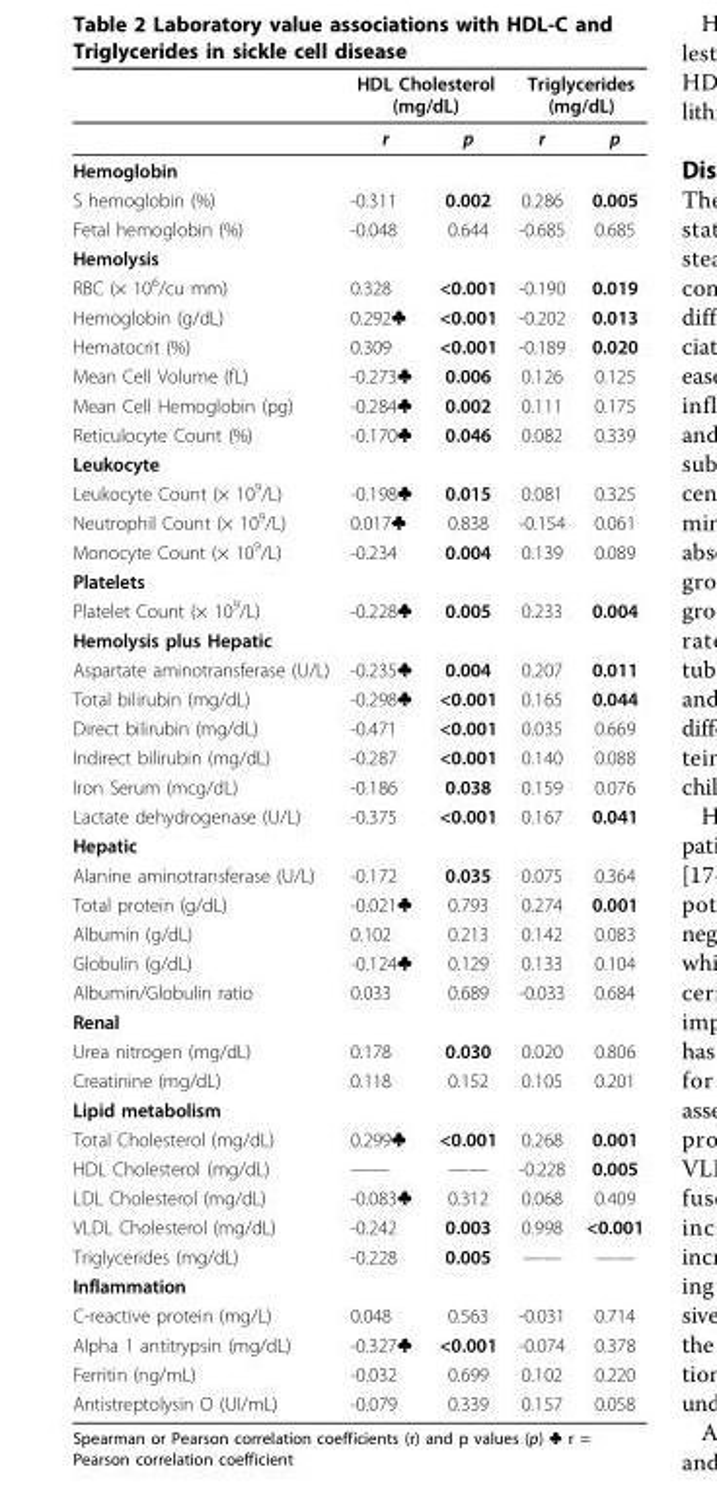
<table><thead><tr><td rowspan="2"></td><td colspan="2">HDL Cholesterol (mg/dL)</td><td colspan="2">Triglycerides (mg/dL)</td></tr><tr><td>r</td><td>p</td><td>r</td><td>p</td></tr></thead><tbody><tr><td colspan="5">Hemoglobin</td></tr><tr><td>S hemoglobin (%)</td><td>-0.311</td><td>0.002</td><td>0.286</td><td>0.005</td></tr><tr><td>Fetal hemoglobin (%)</td><td>-0.048</td><td>0.644</td><td>-0.685</td><td>0.685</td></tr><tr><td colspan="5">Hemolysis</td></tr><tr><td>RBC (× 10<sup>6</sup>/cu mm)</td><td>0.328</td><td>&lt;0.001</td><td>-0.190</td><td>0.019</td></tr><tr><td>Hemoglobin (g/dL)</td><td>0.292♣</td><td>&lt;0.001</td><td>-0.202</td><td>0.013</td></tr><tr><td>Hematocrit (%)</td><td>0.309</td><td>&lt;0.001</td><td>-0.189</td><td>0.020</td></tr><tr><td>Mean Cell Volume (fL)</td><td>-0.273♣</td><td>0.006</td><td>0.126</td><td>0.125</td></tr><tr><td>Mean Cell Hemoglobin (pg)</td><td>-0.284♣</td><td>0.002</td><td>0.111</td><td>0.175</td></tr><tr><td>Reticulocyte Count (%)</td><td>-0.170♣</td><td>0.046</td><td>0.082</td><td>0.339</td></tr><tr><td colspan="5">Leukocyte</td></tr><tr><td>Leukocyte Count (× 10<sup>9</sup>/L)</td><td>-0.198♣</td><td>0.015</td><td>0.081</td><td>0.325</td></tr><tr><td>Neutrophil Count (× 10<sup>9</sup>/L)</td><td>0.017♣</td><td>0.838</td><td>-0.154</td><td>0.061</td></tr><tr><td>Monocyte Count (× 10<sup>9</sup>/L)</td><td>-0.234</td><td>0.004</td><td>0.139</td><td>0.089</td></tr><tr><td colspan="5">Platelets</td></tr><tr><td>Platelet Count (× 10<sup>9</sup>/L)</td><td>-0.228♣</td><td>0.005</td><td>0.233</td><td>0.004</td></tr><tr><td colspan="5">Hemolysis plus Hepatic</td></tr><tr><td>Aspartate aminotransferase (U/L)</td><td>-0.235♣</td><td>0.004</td><td>0.207</td><td>0.011</td></tr><tr><td>Total bilirubin (mg/dL)</td><td>-0.298♣</td><td>&lt;0.001</td><td>0.165</td><td>0.044</td></tr><tr><td>Direct bilirubin (mg/dL)</td><td>-0.471</td><td>&lt;0.001</td><td>0.035</td><td>0.669</td></tr><tr><td>Indirect bilirubin (mg/dL)</td><td>-0.287</td><td>&lt;0.001</td><td>0.140</td><td>0.088</td></tr><tr><td>Iron Serum (mcg/dL)</td><td>-0.186</td><td>0.038</td><td>0.159</td><td>0.076</td></tr><tr><td>Lactate dehydrogenase (U/L)</td><td>-0.375</td><td>&lt;0.001</td><td>0.167</td><td>0.041</td></tr><tr><td colspan="5">Hepatic</td></tr><tr><td>Alanine aminotransferase (U/L)</td><td>-0.172</td><td>0.035</td><td>0.075</td><td>0.364</td></tr><tr><td>Total protein (g/dL)</td><td>-0.021♣</td><td>0.793</td><td>0.274</td><td>0.001</td></tr><tr><td>Albumin (g/dL)</td><td>0.102</td><td>0.213</td><td>0.142</td><td>0.083</td></tr><tr><td>Globulin (g/dL)</td><td>-0.124♣</td><td>0.129</td><td>0.133</td><td>0.104</td></tr><tr><td>Albumin/Globulin ratio</td><td>0.033</td><td>0.689</td><td>-0.033</td><td>0.684</td></tr><tr><td colspan="5">Renal</td></tr><tr><td>Urea nitrogen (mg/dL)</td><td>0.178</td><td>0.030</td><td>0.020</td><td>0.806</td></tr><tr><td>Creatinine (mg/dL)</td><td>0.118</td><td>0.152</td><td>0.105</td><td>0.201</td></tr><tr><td colspan="5">Lipid metabolism</td></tr><tr><td>Total Cholesterol (mg/dL)</td><td>0.299♣</td><td>&lt;0.001</td><td>0.268</td><td>0.001</td></tr><tr><td>HDL Cholesterol (mg/dL)</td><td>——</td><td>——</td><td>-0.228</td><td>0.005</td></tr><tr><td>LDL Cholesterol (mg/dL)</td><td>-0.083♣</td><td>0.312</td><td>0.068</td><td>0.409</td></tr><tr><td>VLDL Cholesterol (mg/dL)</td><td>-0.242</td><td>0.003</td><td>0.998</td><td>&lt;0.001</td></tr><tr><td>Triglycerides (mg/dL)</td><td>-0.228</td><td>0.005</td><td>——</td><td>——</td></tr><tr><td colspan="5">Inflammation</td></tr><tr><td>C-reactive protein (mg/L)</td><td>0.048</td><td>0.563</td><td>-0.031</td><td>0.714</td></tr><tr><td>Alpha 1 antitrypsin (mg/dL)</td><td>-0.327♣</td><td>&lt;0.001</td><td>-0.074</td><td>0.378</td></tr><tr><td>Ferritin (ng/mL)</td><td>-0.032</td><td>0.699</td><td>0.102</td><td>0.220</td></tr><tr><td>Antistreptolysin O (UI/mL)</td><td>-0.079</td><td>0.339</td><td>0.157</td><td>0.058</td></tr></tbody></table>